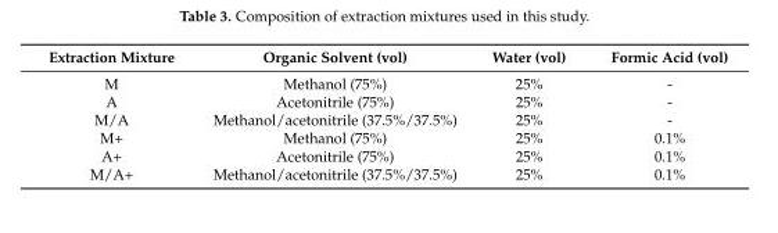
<table><thead><tr><td>Extraction Mixture</td><td>Organic Solvent (vol)</td><td>Water (vol)</td><td>Formic Acid (vol)</td></tr></thead><tbody><tr><td>M</td><td>Methanol (75%)</td><td>25%</td><td>-</td></tr><tr><td>A</td><td>Acetonitrile (75%)</td><td>25%</td><td>-</td></tr><tr><td>M/A</td><td>Methanol/acetonitrile (37.5%/37.5%)</td><td>25%</td><td>-</td></tr><tr><td>M+</td><td>Methanol (75%)</td><td>25%</td><td>0.1%</td></tr><tr><td>A+</td><td>Acetonitrile (75%)</td><td>25%</td><td>0.1%</td></tr><tr><td>M/A+</td><td>Methanol/acetonitrile (37.5%/37.5%)</td><td>25%</td><td>0.1%</td></tr></tbody></table>